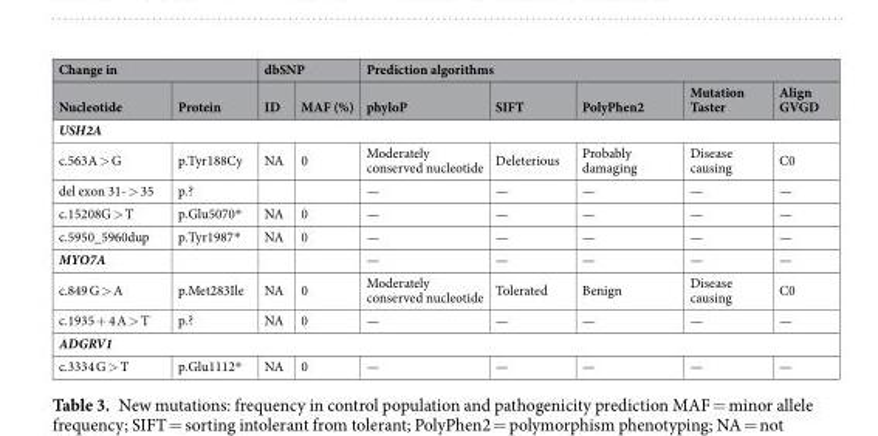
<table><thead><tr><td colspan="2">Change in</td><td colspan="2">dbSNP</td><td colspan="5">Prediction algorithms</td></tr><tr><td>Nucleotide</td><td>Protein</td><td>ID</td><td>MAF (%)</td><td>phyloP</td><td>SIFT</td><td>PolyPhen2</td><td>Mutation Taster</td><td>Align GVGD</td></tr></thead><tbody><tr><td colspan="9">USH2A</td></tr><tr><td>c.563A &gt; G</td><td>p.Tyr188Cy</td><td>NA</td><td>0</td><td>Moderately conserved nucleotide</td><td>Deleterious</td><td>Probably damaging</td><td>Disease causing</td><td>C0</td></tr><tr><td>del exon 31- &gt; 35</td><td>p.?</td><td></td><td></td><td>—</td><td>—</td><td>—</td><td>—</td><td>—</td></tr><tr><td>c.15208G &gt; T</td><td>p.Glu5070*</td><td>NA</td><td>0</td><td>—</td><td>—</td><td>—</td><td>—</td><td>—</td></tr><tr><td>c.5950_5960dup</td><td>p.Tyr1987*</td><td>NA</td><td>0</td><td>—</td><td>—</td><td>—</td><td>—</td><td>—</td></tr><tr><td>MYO7A</td><td></td><td></td><td></td><td>—</td><td>—</td><td>—</td><td>—</td><td>—</td></tr><tr><td>c.849 G &gt; A</td><td>p.Met283Ile</td><td>NA</td><td>0</td><td>Moderately conserved nucleotide</td><td>Tolerated</td><td>Benign</td><td>Disease causing</td><td>C0</td></tr><tr><td>c.1935 + 4 A &gt; T</td><td>p.?</td><td>NA</td><td>0</td><td>—</td><td>—</td><td>—</td><td>—</td><td>—</td></tr><tr><td colspan="9">ADGRV1</td></tr><tr><td>c.3334 G &gt; T</td><td>p.Glu1112*</td><td>NA</td><td>0</td><td>—</td><td>—</td><td>—</td><td>—</td><td>—</td></tr></tbody></table>